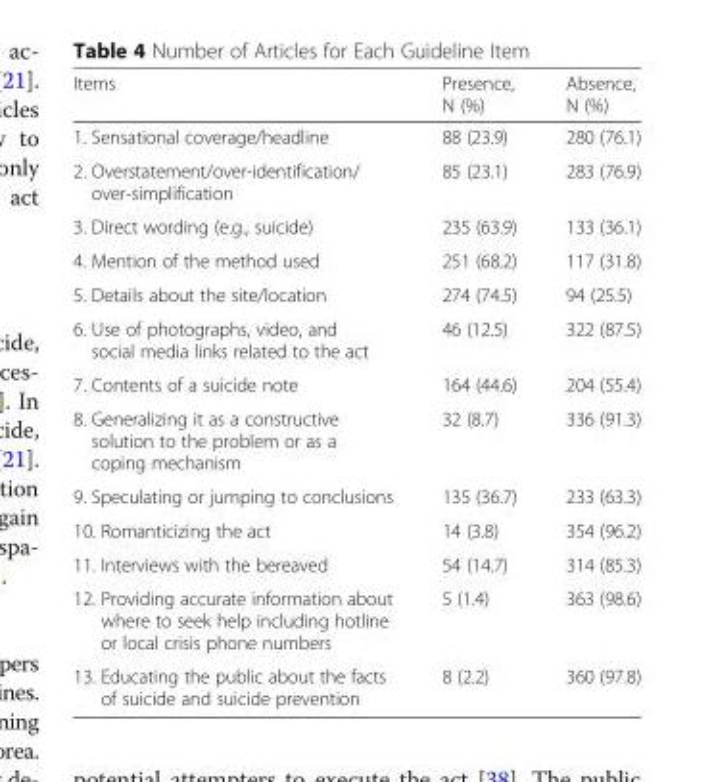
<table><thead><tr><td>Items</td><td>Presence, N (%)</td><td>Absence, N (%)</td></tr></thead><tbody><tr><td>1. Sensational coverage/headline</td><td>88 (23.9)</td><td>280 (76.1)</td></tr><tr><td>2. Overstatement/over-identification/ over-simplification</td><td>85 (23.1)</td><td>283 (76.9)</td></tr><tr><td>3. Direct wording (e.g., suicide)</td><td>235 (63.9)</td><td>133 (36.1)</td></tr><tr><td>4. Mention of the method used</td><td>251 (68.2)</td><td>117 (31.8)</td></tr><tr><td>5. Details about the site/location</td><td>274 (74.5)</td><td>94 (25.5)</td></tr><tr><td>6. Use of photographs, video, and social media links related to the act</td><td>46 (12.5)</td><td>322 (87.5)</td></tr><tr><td>7. Contents of a suicide note</td><td>164 (44.6)</td><td>204 (55.4)</td></tr><tr><td>8. Generalizing it as a constructive solution to the problem or as a coping mechanism</td><td>32 (8.7)</td><td>336 (91.3)</td></tr><tr><td>9. Speculating or jumping to conclusions</td><td>135 (36.7)</td><td>233 (63.3)</td></tr><tr><td>10. Romanticizing the act</td><td>14 (3.8)</td><td>354 (96.2)</td></tr><tr><td>11. Interviews with the bereaved</td><td>54 (14.7)</td><td>314 (85.3)</td></tr><tr><td>12. Providing accurate information about where to seek help including hotline or local crisis phone numbers</td><td>5 (1.4)</td><td>363 (98.6)</td></tr><tr><td>13. Educating the public about the facts of suicide and suicide prevention</td><td>8 (2.2)</td><td>360 (97.8)</td></tr></tbody></table>